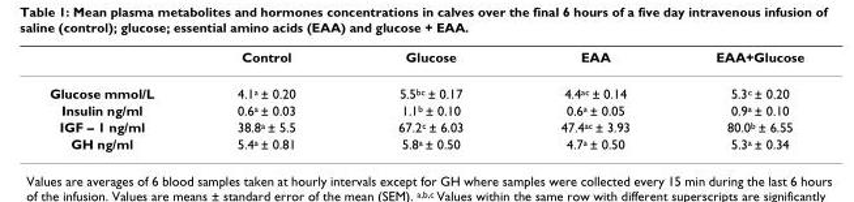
<table><thead><tr><td></td><td>Control</td><td>Glucose</td><td>EAA</td><td>EAA+Glucose</td></tr></thead><tbody><tr><td>Glucose mmol/L</td><td>4.1<sup>a</sup> ± 0.20</td><td>5.5<sup>bc</sup> ± 0.17</td><td>4.4<sup>ac</sup> ± 0.14</td><td>5.3<sup>c</sup> ± 0.20</td></tr><tr><td>Insulin ng/ml</td><td>0.6<sup>a</sup> ± 0.03</td><td>1.1<sup>b</sup> ± 0.10</td><td>0.6<sup>a</sup> ± 0.05</td><td>0.9<sup>a</sup> ± 0.10</td></tr><tr><td>IGF – 1 ng/ml</td><td>38.8<sup>a</sup> ± 5.5</td><td>67.2<sup>c</sup> ± 6.03</td><td>47.4<sup>ac</sup> ± 3.93</td><td>80.0<sup>b</sup> ± 6.55</td></tr><tr><td>GH ng/ml</td><td>5.4<sup>a</sup> ± 0.81</td><td>5.8<sup>a</sup> ± 0.50</td><td>4.7<sup>a</sup> ± 0.50</td><td>5.3<sup>a</sup> ± 0.34</td></tr></tbody></table>